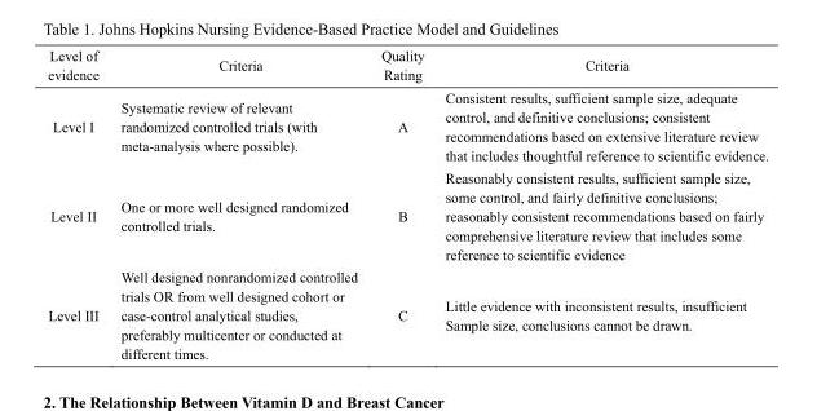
<table><thead><tr><td>Level of evidence</td><td>Criteria</td><td>Quality Rating</td><td>Criteria</td></tr></thead><tbody><tr><td>Level I</td><td>Systematic review of relevant randomized controlled trials (with meta-analysis where possible).</td><td>A</td><td>Consistent results, sufficient sample size, adequate control, and definitive conclusions; consistent recommendations based on extensive literature review that includes thoughtful reference to scientific evidence.</td></tr><tr><td>Level II</td><td>One or more well designed randomized controlled trials.</td><td>B</td><td>Reasonably consistent results, sufficient sample size, some control, and fairly definitive conclusions; reasonably consistent recommendations based on fairly comprehensive literature review that includes some reference to scientific evidence</td></tr><tr><td>Level III</td><td>Well designed nonrandomized controlled trials OR from well designed cohort or case-control analytical studies, preferably multicenter or conducted at different times.</td><td>C</td><td>Little evidence with inconsistent results, insufficient Sample size, conclusions cannot be drawn.</td></tr></tbody></table>